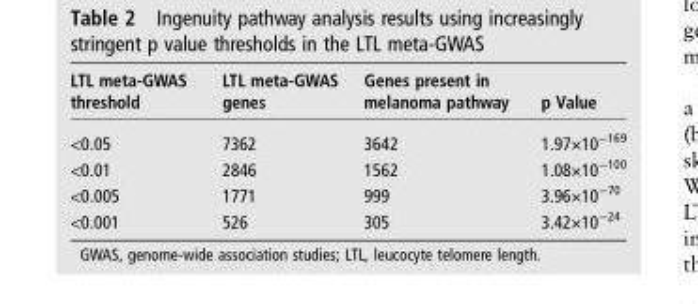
<table><thead><tr><td>LTL meta-GWAS threshold</td><td>LTL meta-GWAS genes</td><td>Genes present in melanoma pathway</td><td>p Value</td></tr></thead><tbody><tr><td>&lt;0.05</td><td>7362</td><td>3642</td><td>1.97×10<sup>−169</sup></td></tr><tr><td>&lt;0.01</td><td>2846</td><td>1562</td><td>1.08×10<sup>−100</sup></td></tr><tr><td>&lt;0.005</td><td>1771</td><td>999</td><td>3.96×10<sup>−70</sup></td></tr><tr><td>&lt;0.001</td><td>526</td><td>305</td><td>3.42×10<sup>−24</sup></td></tr></tbody></table>